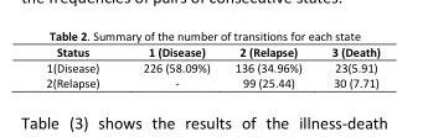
<table><thead><tr><td>Status</td><td>1 (Disease)</td><td>2 (Relapse)</td><td>3 (Death)</td></tr></thead><tbody><tr><td>1(Disease)</td><td>226 (58.09%)</td><td>136 (34.96%)</td><td>23(5.91)</td></tr><tr><td>2(Relapse)</td><td>-</td><td>99 (25.44)</td><td>30 (7.71)</td></tr></tbody></table>